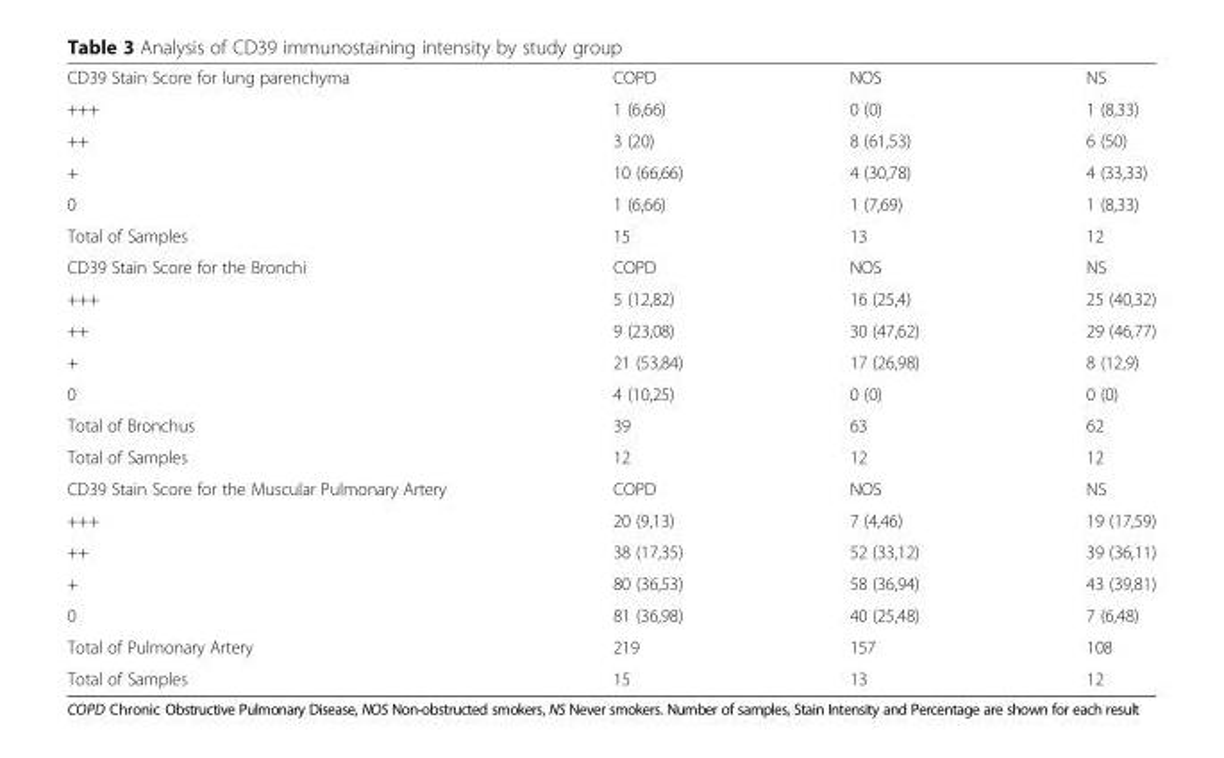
<table><tbody><tr><td>CD39 Stain Score for lung parenchyma</td><td>COPD</td><td>NOS</td><td>NS</td></tr><tr><td>+++</td><td>1 (6,66)</td><td>0 (0)</td><td>1 (8,33)</td></tr><tr><td>++</td><td>3 (20)</td><td>8 (61,53)</td><td>6 (50)</td></tr><tr><td>+</td><td>10 (66,66)</td><td>4 (30,78)</td><td>4 (33,33)</td></tr><tr><td>0</td><td>1 (6,66)</td><td>1 (7,69)</td><td>1 (8,33)</td></tr><tr><td>Total of Samples</td><td>15</td><td>13</td><td>12</td></tr><tr><td>CD39 Stain Score for the Bronchi</td><td>COPD</td><td>NOS</td><td>NS</td></tr><tr><td>+++</td><td>5 (12,82)</td><td>16 (25,4)</td><td>25 (40,32)</td></tr><tr><td>++</td><td>9 (23,08)</td><td>30 (47,62)</td><td>29 (46,77)</td></tr><tr><td>+</td><td>21 (53,84)</td><td>17 (26,98)</td><td>8 (12,9)</td></tr><tr><td>0</td><td>4 (10,25)</td><td>0 (0)</td><td>0 (0)</td></tr><tr><td>Total of Bronchus</td><td>39</td><td>63</td><td>62</td></tr><tr><td>Total of Samples</td><td>12</td><td>12</td><td>12</td></tr><tr><td>CD39 Stain Score for the Muscular Pulmonary Artery</td><td>COPD</td><td>NOS</td><td>NS</td></tr><tr><td>+++</td><td>20 (9,13)</td><td>7 (4,46)</td><td>19 (17,59)</td></tr><tr><td>++</td><td>38 (17,35)</td><td>52 (33,12)</td><td>39 (36,11)</td></tr><tr><td>+</td><td>80 (36,53)</td><td>58 (36,94)</td><td>43 (39,81)</td></tr><tr><td>0</td><td>81 (36,98)</td><td>40 (25,48)</td><td>7 (6,48)</td></tr><tr><td>Total of Pulmonary Artery</td><td>219</td><td>157</td><td>108</td></tr><tr><td>Total of Samples</td><td>15</td><td>13</td><td>12</td></tr></tbody></table>